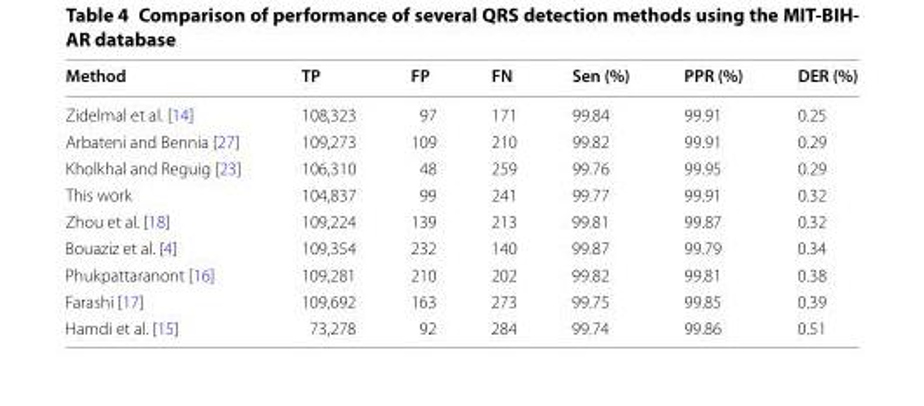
<table><thead><tr><td>Method</td><td>TP</td><td>FP</td><td>FN</td><td>Sen (%)</td><td>PPR (%)</td><td>DER (%)</td></tr></thead><tbody><tr><td>Zidelmal et al. [14]</td><td>108,323</td><td>97</td><td>171</td><td>99.84</td><td>99.91</td><td>0.25</td></tr><tr><td>Arbateni and Bennia [27]</td><td>109,273</td><td>109</td><td>210</td><td>99.82</td><td>99.91</td><td>0.29</td></tr><tr><td>Kholkhal and Reguig [23]</td><td>106,310</td><td>48</td><td>259</td><td>99.76</td><td>99.95</td><td>0.29</td></tr><tr><td>This work</td><td>104,837</td><td>99</td><td>241</td><td>99.77</td><td>99.91</td><td>0.32</td></tr><tr><td>Zhou et al. [18]</td><td>109,224</td><td>139</td><td>213</td><td>99.81</td><td>99.87</td><td>0.32</td></tr><tr><td>Bouaziz et al. [4]</td><td>109,354</td><td>232</td><td>140</td><td>99.87</td><td>99.79</td><td>0.34</td></tr><tr><td>Phukpattaranont [16]</td><td>109,281</td><td>210</td><td>202</td><td>99.82</td><td>99.81</td><td>0.38</td></tr><tr><td>Farashi [17]</td><td>109,692</td><td>163</td><td>273</td><td>99.75</td><td>99.85</td><td>0.39</td></tr><tr><td>Hamdi et al. [15]</td><td>73,278</td><td>92</td><td>284</td><td>99.74</td><td>99.86</td><td>0.51</td></tr></tbody></table>